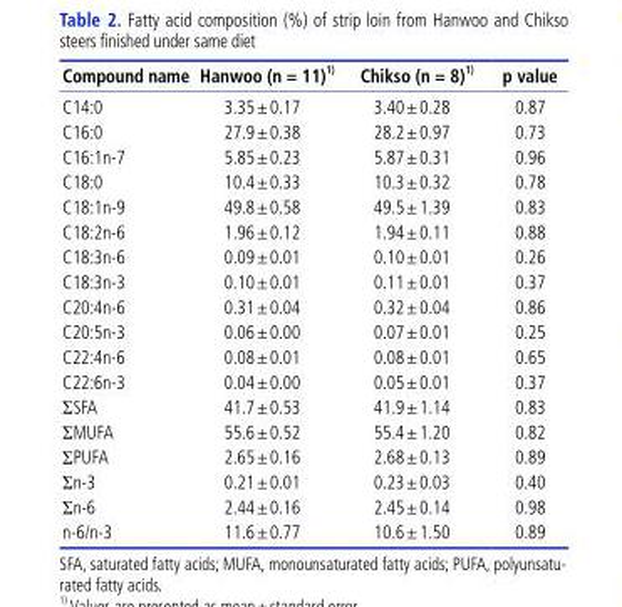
<table><thead><tr><td>Compound name</td><td>Hanwoo (n = 11) 1)</td><td>Chikso (n = 8) 1)</td><td>p value</td></tr></thead><tbody><tr><td>C14:0</td><td>3.35±0.17</td><td>3.40±0.28</td><td>0.87</td></tr><tr><td>C16:0</td><td>27.9±0.38</td><td>28.2±0.97</td><td>0.73</td></tr><tr><td>C16:1n-7</td><td>5.85±0.23</td><td>5.87±0.31</td><td>0.96</td></tr><tr><td>C18:0</td><td>10.4±0.33</td><td>10.3±0.32</td><td>0.78</td></tr><tr><td>C18:1n-9</td><td>49.8±0.58</td><td>49.5±1.39</td><td>0.83</td></tr><tr><td>C18:2n-6</td><td>1.96±0.12</td><td>1.94±0.11</td><td>0.88</td></tr><tr><td>C18:3n-6</td><td>0.09±0.01</td><td>0.10±0.01</td><td>0.26</td></tr><tr><td>C18:3n-3</td><td>0.10±0.01</td><td>0.11±0.01</td><td>0.37</td></tr><tr><td>C20:4n-6</td><td>0.31±0.04</td><td>0.32±0.04</td><td>0.86</td></tr><tr><td>C20:5n-3</td><td>0.06±0.00</td><td>0.07±0.01</td><td>0.25</td></tr><tr><td>C22:4n-6</td><td>0.08±0.01</td><td>0.08±0.01</td><td>0.65</td></tr><tr><td>C22:6n-3</td><td>0.04±0.00</td><td>0.05±0.01</td><td>0.37</td></tr><tr><td>ΣSFA</td><td>41.7±0.53</td><td>41.9±1.14</td><td>0.83</td></tr><tr><td>ΣMUFA</td><td>55.6±0.52</td><td>55.4±1.20</td><td>0.82</td></tr><tr><td>ΣPUFA</td><td>2.65±0.16</td><td>2.68±0.13</td><td>0.89</td></tr><tr><td>Σn-3</td><td>0.21±0.01</td><td>0.23±0.03</td><td>0.40</td></tr><tr><td>Σn-6</td><td>2.44±0.16</td><td>2.45±0.14</td><td>0.98</td></tr><tr><td>n-6/n-3</td><td>11.6±0.77</td><td>10.6±1.50</td><td>0.89</td></tr></tbody></table>